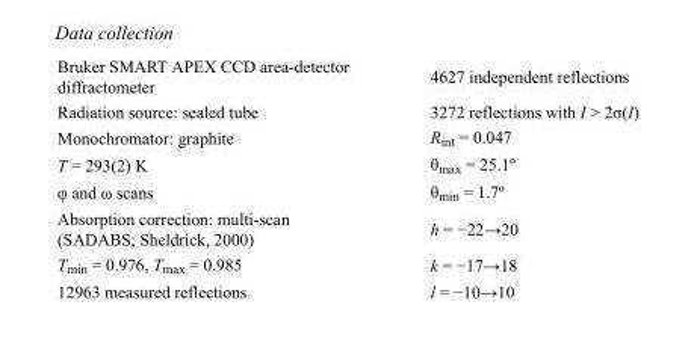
<table><tbody><tr><td>Bruker SMART APEX CCD area-detector diffractometer</td><td>4627 independent reflections</td></tr><tr><td>Radiation source: sealed tube</td><td>3272 reflections with I &gt; 2σ(I)</td></tr><tr><td>Monochromator: graphite</td><td>R<sub>int</sub> = 0.047</td></tr><tr><td>T = 293(2) K</td><td>θ<sub>max</sub> = 25.1º</td></tr><tr><td>φ and ω scans</td><td>θ<sub>min</sub> = 1.7º</td></tr><tr><td>Absorption correction: multi-scan (SADABS; Sheldrick, 2000)</td><td>h = −22→20</td></tr><tr><td>T<sub>min</sub> = 0.976, T<sub>max</sub> = 0.985</td><td>k = −17→18</td></tr><tr><td>12963 measured reflections</td><td>l = −10→10</td></tr></tbody></table>